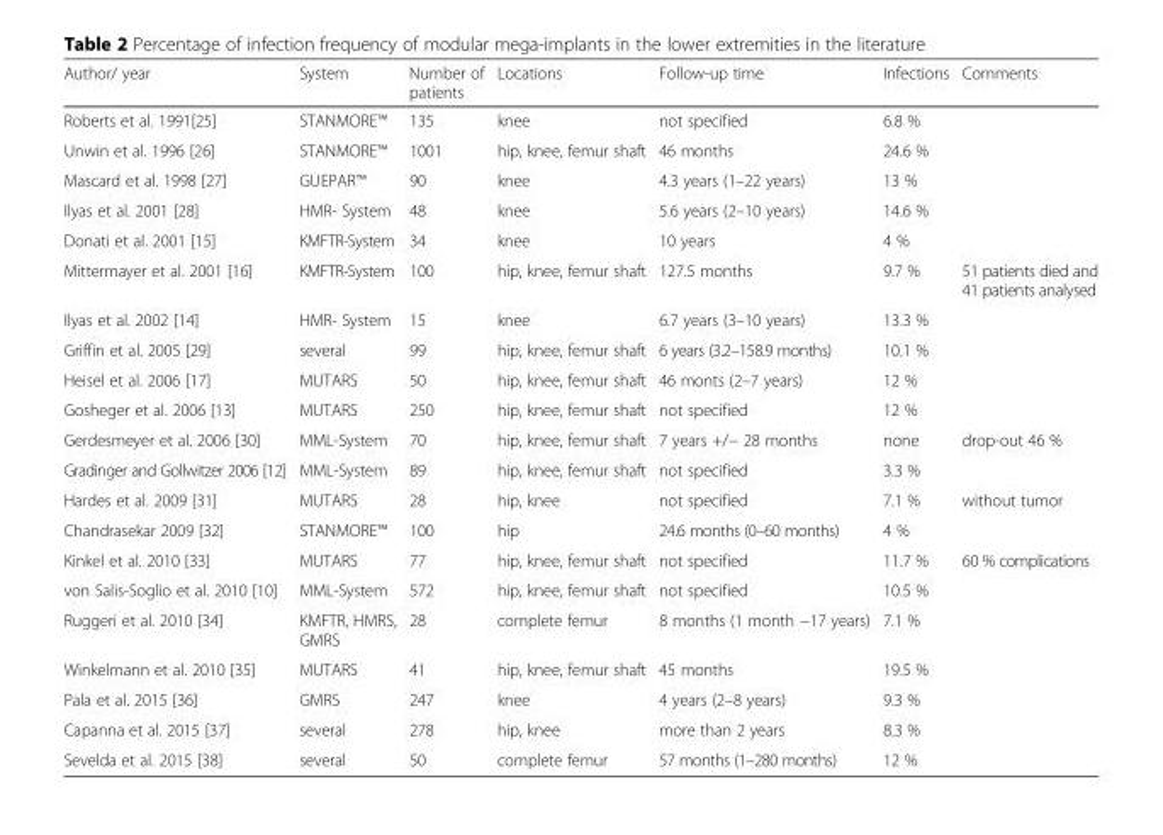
<table><thead><tr><td>Author/ year</td><td>System</td><td>Number of patients</td><td>Locations</td><td>Follow-up time</td><td>Infections</td><td>Comments</td></tr></thead><tbody><tr><td>Roberts et al. 1991[25]</td><td>STANMORE™</td><td>135</td><td>knee</td><td>not specified</td><td>6.8 %</td><td></td></tr><tr><td>Unwin et al. 1996 [26]</td><td>STANMORE™</td><td>1001</td><td>hip, knee, femur shaft</td><td>46 months</td><td>24.6 %</td><td></td></tr><tr><td>Mascard et al. 1998 [27]</td><td>GUEPAR™</td><td>90</td><td>knee</td><td>4.3 years (1–22 years)</td><td>13 %</td><td></td></tr><tr><td>Ilyas et al. 2001 [28]</td><td>HMR- System</td><td>48</td><td>knee</td><td>5.6 years (2–10 years)</td><td>14.6 %</td><td></td></tr><tr><td>Donati et al. 2001 [15]</td><td>KMFTR-System</td><td>34</td><td>knee</td><td>10 years</td><td>4 %</td><td></td></tr><tr><td>Mittermayer et al. 2001 [16]</td><td>KMFTR-System</td><td>100</td><td>hip, knee, femur shaft</td><td>127.5 months</td><td>9.7 %</td><td>51 patients died and 41 patients analysed</td></tr><tr><td>Ilyas et al. 2002 [14]</td><td>HMR- System</td><td>15</td><td>knee</td><td>6.7 years (3–10 years)</td><td>13.3 %</td><td></td></tr><tr><td>Griffin et al. 2005 [29]</td><td>several</td><td>99</td><td>hip, knee, femur shaft</td><td>6 years (3.2–158.9 months)</td><td>10.1 %</td><td></td></tr><tr><td>Heisel et al. 2006 [17]</td><td>MUTARS</td><td>50</td><td>hip, knee, femur shaft</td><td>46 monts (2–7 years)</td><td>12 %</td><td></td></tr><tr><td>Gosheger et al. 2006 [13]</td><td>MUTARS</td><td>250</td><td>hip, knee, femur shaft</td><td>not specified</td><td>12 %</td><td></td></tr><tr><td>Gerdesmeyer et al. 2006 [30]</td><td>MML-System</td><td>70</td><td>hip, knee, femur shaft</td><td>7 years +/− 28 months</td><td>none</td><td>drop-out 46 %</td></tr><tr><td>Gradinger and Gollwitzer 2006 [12]</td><td>MML-System</td><td>89</td><td>hip, knee, femur shaft</td><td>not specified</td><td>3.3 %</td><td></td></tr><tr><td>Hardes et al. 2009 [31]</td><td>MUTARS</td><td>28</td><td>hip, knee</td><td>not specified</td><td>7.1 %</td><td>without tumor</td></tr><tr><td>Chandrasekar 2009 [32]</td><td>STANMORE™</td><td>100</td><td>hip</td><td>24.6 months (0–60 months)</td><td>4 %</td><td></td></tr><tr><td>Kinkel et al. 2010 [33]</td><td>MUTARS</td><td>77</td><td>hip, knee, femur shaft</td><td>not specified</td><td>11.7 %</td><td>60 % complications</td></tr><tr><td>von Salis-Soglio et al. 2010 [10]</td><td>MML-System</td><td>572</td><td>hip, knee, femur shaft</td><td>not specified</td><td>10.5 %</td><td></td></tr><tr><td>Ruggeri et al. 2010 [34]</td><td>KMFTR, HMRS, GMRS</td><td>28</td><td>complete femur</td><td>8 months (1 month −17 years)</td><td>7.1 %</td><td></td></tr><tr><td>Winkelmann et al. 2010 [35]</td><td>MUTARS</td><td>41</td><td>hip, knee, femur shaft</td><td>45 months</td><td>19.5 %</td><td></td></tr><tr><td>Pala et al. 2015 [36]</td><td>GMRS</td><td>247</td><td>knee</td><td>4 years (2–8 years)</td><td>9.3 %</td><td></td></tr><tr><td>Capanna et al. 2015 [37]</td><td>several</td><td>278</td><td>hip, knee</td><td>more than 2 years</td><td>8.3 %</td><td></td></tr><tr><td>Sevelda et al. 2015 [38]</td><td>several</td><td>50</td><td>complete femur</td><td>57 months (1–280 months)</td><td>12 %</td><td></td></tr></tbody></table>